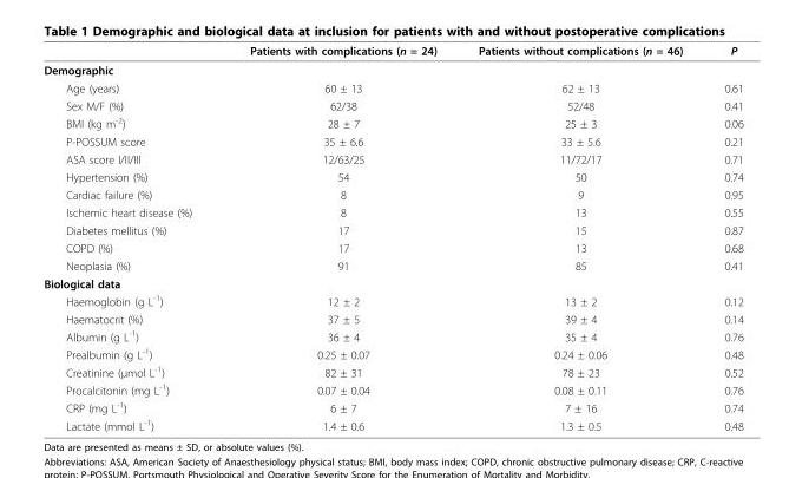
<table><thead><tr><td></td><td>Patients with complications (n = 24)</td><td>Patients without complications (n = 46)</td><td>P</td></tr></thead><tbody><tr><td colspan="4">Demographic</td></tr><tr><td>Age (years)</td><td>60 ± 13</td><td>62 ± 13</td><td>0.61</td></tr><tr><td>Sex M/F (%)</td><td>62/38</td><td>52/48</td><td>0.41</td></tr><tr><td>BMI (kg m<sup>-2</sup>)</td><td>28 ± 7</td><td>25 ± 3</td><td>0.06</td></tr><tr><td>P-POSSUM score</td><td>35 ± 6.6</td><td>33 ± 5.6</td><td>0.21</td></tr><tr><td>ASA score I/II/III</td><td>12/63/25</td><td>11/72/17</td><td>0.71</td></tr><tr><td>Hypertension (%)</td><td>54</td><td>50</td><td>0.74</td></tr><tr><td>Cardiac failure (%)</td><td>8</td><td>9</td><td>0.95</td></tr><tr><td>Ischemic heart disease (%)</td><td>8</td><td>13</td><td>0.55</td></tr><tr><td>Diabetes mellitus (%)</td><td>17</td><td>15</td><td>0.87</td></tr><tr><td>COPD (%)</td><td>17</td><td>13</td><td>0.68</td></tr><tr><td>Neoplasia (%)</td><td>91</td><td>85</td><td>0.41</td></tr><tr><td colspan="4">Biological data</td></tr><tr><td>Haemoglobin (g L<sup>-1</sup>)</td><td>12 ± 2</td><td>13 ± 2</td><td>0.12</td></tr><tr><td>Haematocrit (%)</td><td>37 ± 5</td><td>39 ± 4</td><td>0.14</td></tr><tr><td>Albumin (g L<sup>-1</sup>)</td><td>36 ± 4</td><td>35 ± 4</td><td>0.76</td></tr><tr><td>Prealbumin (g L<sup>-1</sup>)</td><td>0.25 ± 0.07</td><td>0.24 ± 0.06</td><td>0.48</td></tr><tr><td>Creatinine (μmol L<sup>-1</sup>)</td><td>82 ± 31</td><td>78 ± 23</td><td>0.52</td></tr><tr><td>Procalcitonin (mg L<sup>-1</sup>)</td><td>0.07 ± 0.04</td><td>0.08 ± 0.11</td><td>0.76</td></tr><tr><td>CRP (mg L<sup>-1</sup>)</td><td>6 ± 7</td><td>7 ± 16</td><td>0.74</td></tr><tr><td>Lactate (mmol L<sup>-1</sup>)</td><td>1.4 ± 0.6</td><td>1.3 ± 0.5</td><td>0.48</td></tr></tbody></table>